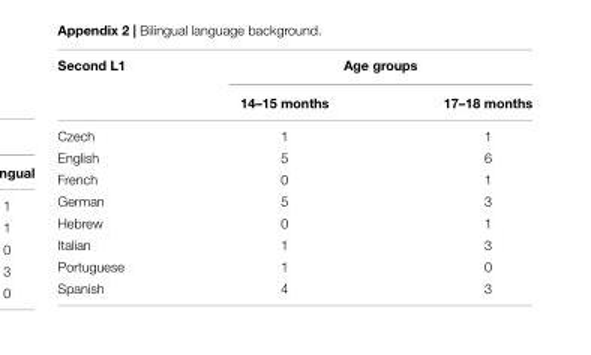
<table><thead><tr><td rowspan="2">Second L1</td><td colspan="2">Age groups</td></tr><tr><td>14–15 months</td><td>17–18 months</td></tr></thead><tbody><tr><td>Czech</td><td>1</td><td>1</td></tr><tr><td>English</td><td>5</td><td>6</td></tr><tr><td>French</td><td>0</td><td>1</td></tr><tr><td>German</td><td>5</td><td>3</td></tr><tr><td>Hebrew</td><td>0</td><td>1</td></tr><tr><td>Italian</td><td>1</td><td>3</td></tr><tr><td>Portuguese</td><td>1</td><td>0</td></tr><tr><td>Spanish</td><td>4</td><td>3</td></tr></tbody></table>